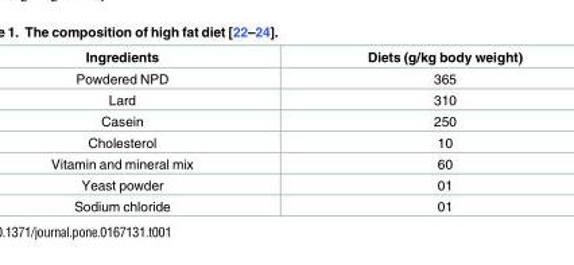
<table><thead><tr><td>Ingredients</td><td>Diets (g/kg body weight)</td></tr></thead><tbody><tr><td>Powdered NPD</td><td>365</td></tr><tr><td>Lard</td><td>310</td></tr><tr><td>Casein</td><td>250</td></tr><tr><td>Cholesterol</td><td>10</td></tr><tr><td>Vitamin and mineral mix</td><td>60</td></tr><tr><td>Yeast powder</td><td>01</td></tr><tr><td>Sodium chloride</td><td>01</td></tr></tbody></table>